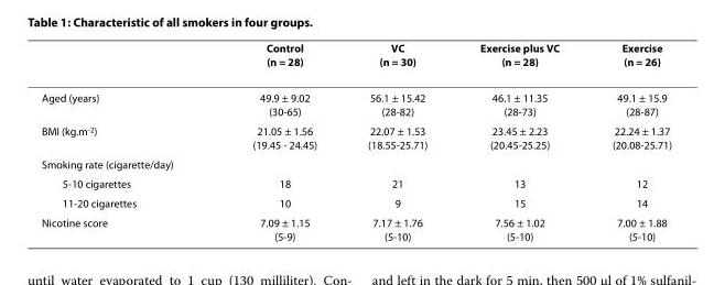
<table><thead><tr><td></td><td>Control (n = 28)</td><td>VC (n = 30)</td><td>Exercise plus VC (n = 28)</td><td>Exercise (n = 26)</td></tr></thead><tbody><tr><td>Aged (years)</td><td>49.9 ± 9.02 (30-65)</td><td>56.1 ± 15.42 (28-82)</td><td>46.1 ± 11.35 (28-73)</td><td>49.1 ± 15.9 (28-87)</td></tr><tr><td>BMI (kg.m<sup>-2</sup>)</td><td>21.05 ± 1.56 (19.45 - 24.45)</td><td>22.07 ± 1.53 (18.55-25.71)</td><td>23.45 ± 2.23 (20.45-25.25)</td><td>22.24 ± 1.37 (20.08-25.71)</td></tr><tr><td colspan="5">Smoking rate (cigarette/day)</td></tr><tr><td>5-10 cigarettes</td><td>18</td><td>21</td><td>13</td><td>12</td></tr><tr><td>11-20 cigarettes</td><td>10</td><td>9</td><td>15</td><td>14</td></tr><tr><td>Nicotine score</td><td>7.09 ± 1.15 (5-9)</td><td>7.17 ± 1.76 (5-10)</td><td>7.56 ± 1.02 (5-10)</td><td>7.00 ± 1.88 (5-10)</td></tr></tbody></table>